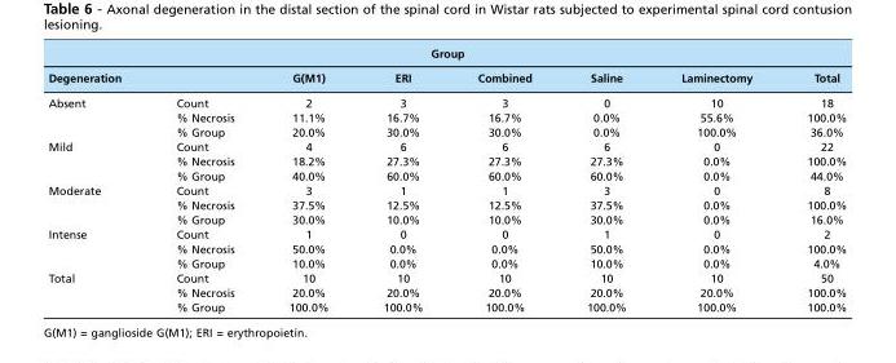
<table><thead><tr><td colspan="8">Group</td></tr><tr><td>Degeneration</td><td></td><td>G(M1)</td><td>ERI</td><td>Combined</td><td>Saline</td><td>Laminectomy</td><td>Total</td></tr></thead><tbody><tr><td rowspan="3">Absent</td><td>Count</td><td>2</td><td>3</td><td>3</td><td>0</td><td>10</td><td>18</td></tr><tr><td>% Necrosis</td><td>11.1%</td><td>16.7%</td><td>16.7%</td><td>0.0%</td><td>55.6%</td><td>100.0%</td></tr><tr><td>% Group</td><td>20.0%</td><td>30.0%</td><td>30.0%</td><td>0.0%</td><td>100.0%</td><td>36.0%</td></tr><tr><td rowspan="3">Mild</td><td>Count</td><td>4</td><td>6</td><td>6</td><td>6</td><td>0</td><td>22</td></tr><tr><td>% Necrosis</td><td>18.2%</td><td>27.3%</td><td>27.3%</td><td>27.3%</td><td>0.0%</td><td>100.0%</td></tr><tr><td>% Group</td><td>40.0%</td><td>60.0%</td><td>60.0%</td><td>60.0%</td><td>0.0%</td><td>44.0%</td></tr><tr><td rowspan="3">Moderate</td><td>Count</td><td>3</td><td>1</td><td>1</td><td>3</td><td>0</td><td>8</td></tr><tr><td>% Necrosis</td><td>37.5%</td><td>12.5%</td><td>12.5%</td><td>37.5%</td><td>0.0%</td><td>100.0%</td></tr><tr><td>% Group</td><td>30.0%</td><td>10.0%</td><td>10.0%</td><td>30.0%</td><td>0.0%</td><td>16.0%</td></tr><tr><td rowspan="3">Intense</td><td>Count</td><td>1</td><td>0</td><td>0</td><td>1</td><td>0</td><td>2</td></tr><tr><td>% Necrosis</td><td>50.0%</td><td>0.0%</td><td>0.0%</td><td>50.0%</td><td>0.0%</td><td>100.0%</td></tr><tr><td>% Group</td><td>10.0%</td><td>0.0%</td><td>0.0%</td><td>10.0%</td><td>0.0%</td><td>4.0%</td></tr><tr><td rowspan="3">Total</td><td>Count</td><td>10</td><td>10</td><td>10</td><td>10</td><td>10</td><td>50</td></tr><tr><td>% Necrosis</td><td>20.0%</td><td>20.0%</td><td>20.0%</td><td>20.0%</td><td>20.0%</td><td>100.0%</td></tr><tr><td>% Group</td><td>100.0%</td><td>100.0%</td><td>100.0%</td><td>100.0%</td><td>100.0%</td><td>100.0%</td></tr></tbody></table>